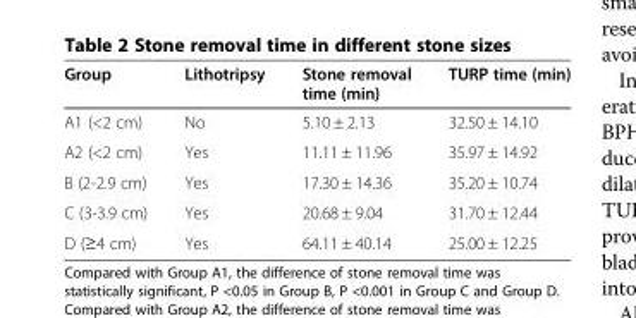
<table><thead><tr><td>Group</td><td>Lithotripsy</td><td>Stone removal time (min)</td><td>TURP time (min)</td></tr></thead><tbody><tr><td>A1 (&lt;2 cm)</td><td>No</td><td>5.10 ± 2.13</td><td>32.50 ± 14.10</td></tr><tr><td>A2 (&lt;2 cm)</td><td>Yes</td><td>11.11 ± 11.96</td><td>35.97 ± 14.92</td></tr><tr><td>B (2-2.9 cm)</td><td>Yes</td><td>17.30 ± 14.36</td><td>35.20 ± 10.74</td></tr><tr><td>C (3-3.9 cm)</td><td>Yes</td><td>20.68 ± 9.04</td><td>31.70 ± 12.44</td></tr><tr><td>D (≥4 cm)</td><td>Yes</td><td>64.11 ± 40.14</td><td>25.00 ± 12.25</td></tr></tbody></table>